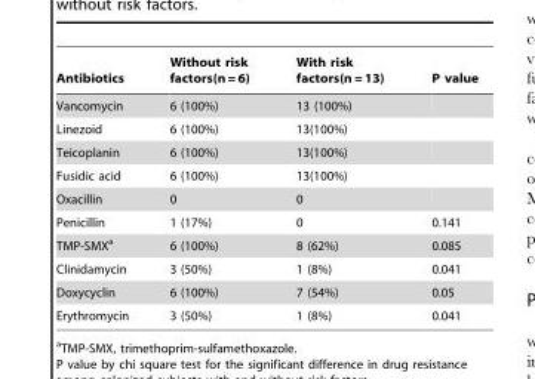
<table><thead><tr><td>Antibiotics</td><td>Without risk factors(n = 6)</td><td>With risk factors(n = 13)</td><td>P value</td></tr></thead><tbody><tr><td>Vancomycin</td><td>6 (100%)</td><td>13 (100%)</td><td></td></tr><tr><td>Linezoid</td><td>6 (100%)</td><td>13(100%)</td><td></td></tr><tr><td>Teicoplanin</td><td>6 (100%)</td><td>13(100%)</td><td></td></tr><tr><td>Fusidic acid</td><td>6 (100%)</td><td>13(100%)</td><td></td></tr><tr><td>Oxacillin</td><td>0</td><td>0</td><td></td></tr><tr><td>Penicillin</td><td>1 (17%)</td><td>0</td><td>0.141</td></tr><tr><td>TMP-SMX<sup>a</sup></td><td>6 (100%)</td><td>8 (62%)</td><td>0.085</td></tr><tr><td>Clinidamycin</td><td>3 (50%)</td><td>1 (8%)</td><td>0.041</td></tr><tr><td>Doxycyclin</td><td>6 (100%)</td><td>7 (54%)</td><td>0.05</td></tr><tr><td>Erythromycin</td><td>3 (50%)</td><td>1 (8%)</td><td>0.041</td></tr></tbody></table>